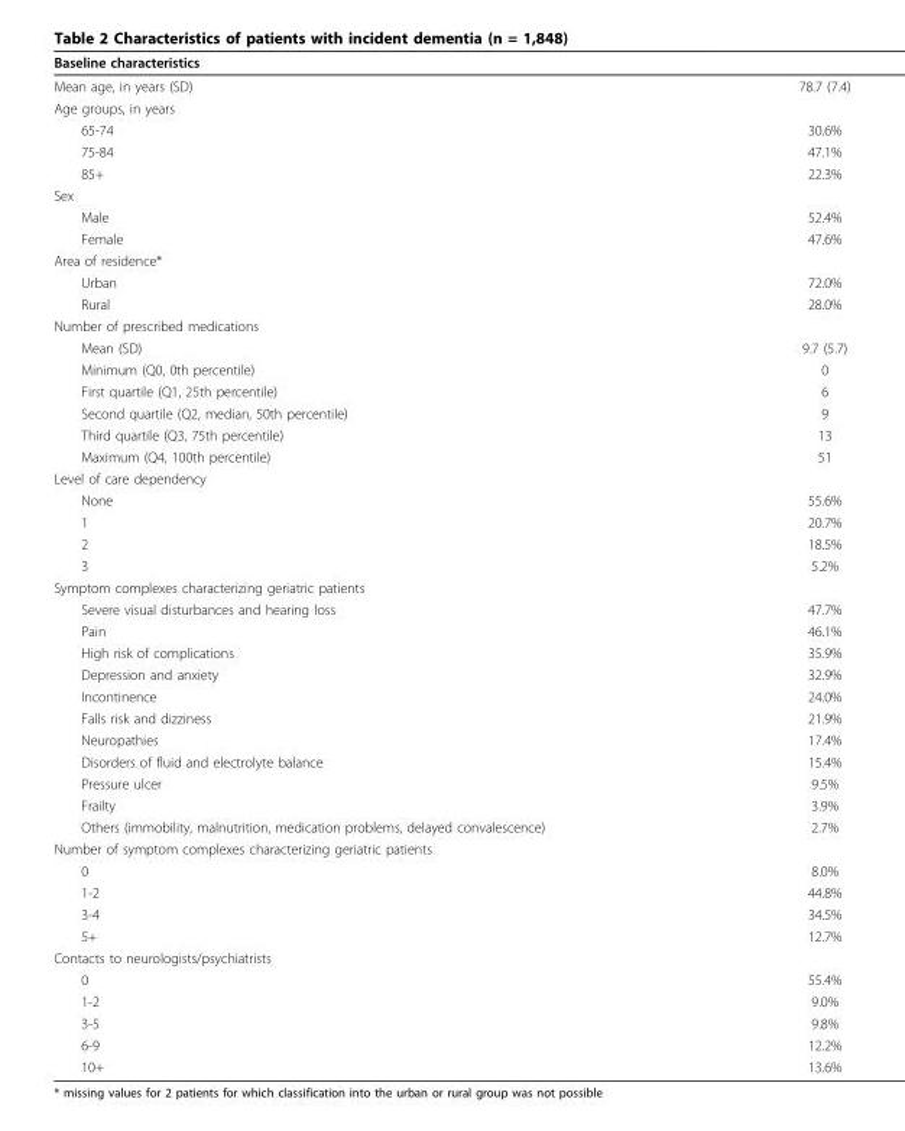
<table><thead><tr><td>Baseline characteristics</td><td></td></tr></thead><tbody><tr><td>Mean age, in years (SD)</td><td>78.7 (7.4)</td></tr><tr><td colspan="2">Age groups, in years</td></tr><tr><td>65-74</td><td>30.6%</td></tr><tr><td>75-84</td><td>47.1%</td></tr><tr><td>85+</td><td>22.3%</td></tr><tr><td colspan="2">Sex</td></tr><tr><td>Male</td><td>52.4%</td></tr><tr><td>Female</td><td>47.6%</td></tr><tr><td colspan="2">Area of residence*</td></tr><tr><td>Urban</td><td>72.0%</td></tr><tr><td>Rural</td><td>28.0%</td></tr><tr><td colspan="2">Number of prescribed medications</td></tr><tr><td>Mean (SD)</td><td>9.7 (5.7)</td></tr><tr><td>Minimum (Q0, 0th percentile)</td><td>0</td></tr><tr><td>First quartile (Q1, 25th percentile)</td><td>6</td></tr><tr><td>Second quartile (Q2, median, 50th percentile)</td><td>9</td></tr><tr><td>Third quartile (Q3, 75th percentile)</td><td>13</td></tr><tr><td>Maximum (Q4, 100th percentile)</td><td>51</td></tr><tr><td colspan="2">Level of care dependency</td></tr><tr><td>None</td><td>55.6%</td></tr><tr><td>1</td><td>20.7%</td></tr><tr><td>2</td><td>18.5%</td></tr><tr><td>3</td><td>5.2%</td></tr><tr><td colspan="2">Symptom complexes characterizing geriatric patients</td></tr><tr><td>Severe visual disturbances and hearing loss</td><td>47.7%</td></tr><tr><td>Pain</td><td>46.1%</td></tr><tr><td>High risk of complications</td><td>35.9%</td></tr><tr><td>Depression and anxiety</td><td>32.9%</td></tr><tr><td>Incontinence</td><td>24.0%</td></tr><tr><td>Falls risk and dizziness</td><td>21.9%</td></tr><tr><td>Neuropathies</td><td>17.4%</td></tr><tr><td>Disorders of fluid and electrolyte balance</td><td>15.4%</td></tr><tr><td>Pressure ulcer</td><td>9.5%</td></tr><tr><td>Frailty</td><td>3.9%</td></tr><tr><td>Others (immobility, malnutrition, medication problems, delayed convalescence)</td><td>2.7%</td></tr><tr><td colspan="2">Number of symptom complexes characterizing geriatric patients</td></tr><tr><td>0</td><td>8.0%</td></tr><tr><td>1-2</td><td>44.8%</td></tr><tr><td>3-4</td><td>34.5%</td></tr><tr><td>5+</td><td>12.7%</td></tr><tr><td colspan="2">Contacts to neurologists/psychiatrists</td></tr><tr><td>0</td><td>55.4%</td></tr><tr><td>1-2</td><td>9.0%</td></tr><tr><td>3-5</td><td>9.8%</td></tr><tr><td>6-9</td><td>12.2%</td></tr><tr><td>10+</td><td>13.6%</td></tr></tbody></table>